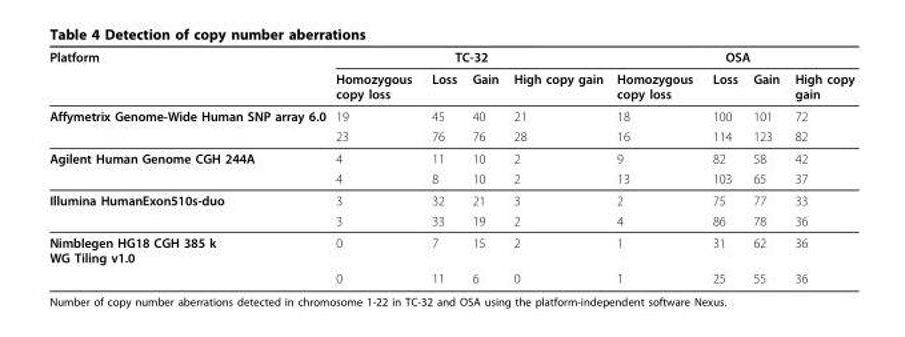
<table><thead><tr><td rowspan="2">Platform</td><td colspan="4">TC-32</td><td colspan="4">OSA</td></tr><tr><td>Homozygous copy loss</td><td>Loss</td><td>Gain</td><td>High copy gain</td><td>Homozygous copy loss</td><td>Loss</td><td>Gain</td><td>High copy gain</td></tr></thead><tbody><tr><td rowspan="2">Affymetrix Genome-Wide Human SNP array 6.0</td><td>19</td><td>45</td><td>40</td><td>21</td><td>18</td><td>100</td><td>101</td><td>72</td></tr><tr><td>23</td><td>76</td><td>76</td><td>28</td><td>16</td><td>114</td><td>123</td><td>82</td></tr><tr><td rowspan="2">Agilent Human Genome CGH 244A</td><td>4</td><td>11</td><td>10</td><td>2</td><td>9</td><td>82</td><td>58</td><td>42</td></tr><tr><td>4</td><td>8</td><td>10</td><td>2</td><td>13</td><td>103</td><td>65</td><td>37</td></tr><tr><td rowspan="2">Illumina HumanExon510s-duo</td><td>3</td><td>32</td><td>21</td><td>3</td><td>2</td><td>75</td><td>77</td><td>33</td></tr><tr><td>3</td><td>33</td><td>19</td><td>2</td><td>4</td><td>86</td><td>78</td><td>36</td></tr><tr><td rowspan="2">Nimblegen HG18 CGH 385 k WG Tiling v1.0</td><td>0</td><td>7</td><td>15</td><td>2</td><td>1</td><td>31</td><td>62</td><td>36</td></tr><tr><td>0</td><td>11</td><td>6</td><td>0</td><td>1</td><td>25</td><td>55</td><td>36</td></tr></tbody></table>